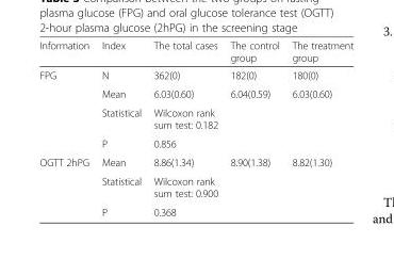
<table><thead><tr><td>Information</td><td>Index</td><td>The total cases</td><td>The control group</td><td>The treatment group</td></tr></thead><tbody><tr><td rowspan="4">FPG</td><td>N</td><td>362(0)</td><td>182(0)</td><td>180(0)</td></tr><tr><td>Mean</td><td>6.03(0.60)</td><td>6.04(0.59)</td><td>6.03(0.60)</td></tr><tr><td>Statistical</td><td>Wilcoxon rank sum test: 0.182</td><td></td><td></td></tr><tr><td>P</td><td>0.856</td><td></td><td></td></tr><tr><td rowspan="3">OGTT 2hPG</td><td>Mean</td><td>8.86(1.34)</td><td>8.90(1.38)</td><td>8.82(1.30)</td></tr><tr><td>Statistical</td><td>Wilcoxon rank sum test: 0.900</td><td></td><td></td></tr><tr><td>P</td><td>0.368</td><td></td><td></td></tr></tbody></table>